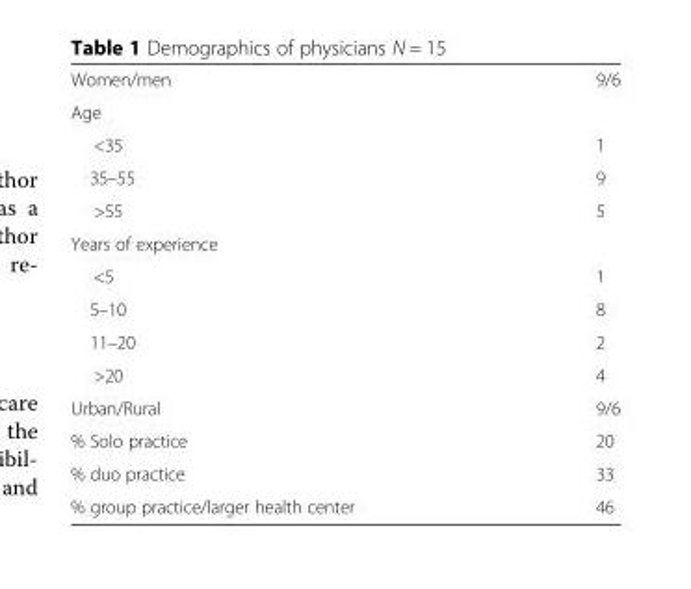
<table><tbody><tr><td>Women/men</td><td>9/6</td></tr><tr><td colspan="2">Age</td></tr><tr><td>&lt;35</td><td>1</td></tr><tr><td>35–55</td><td>9</td></tr><tr><td>&gt;55</td><td>5</td></tr><tr><td colspan="2">Years of experience</td></tr><tr><td>&lt;5</td><td>1</td></tr><tr><td>5–10</td><td>8</td></tr><tr><td>11–20</td><td>2</td></tr><tr><td>&gt;20</td><td>4</td></tr><tr><td>Urban/Rural</td><td>9/6</td></tr><tr><td>% Solo practice</td><td>20</td></tr><tr><td>% duo practice</td><td>33</td></tr><tr><td>% group practice/larger health center</td><td>46</td></tr></tbody></table>